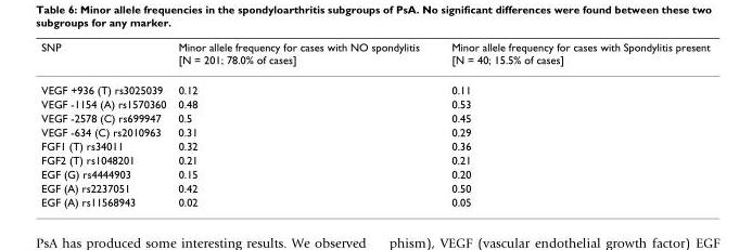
<table><thead><tr><td>SNP</td><td>Minor allele frequency for cases with NO spondylitis [N = 201; 78.0% of cases]</td><td>Minor allele frequency for cases with Spondylitis present [N = 40; 15.5% of cases]</td></tr></thead><tbody><tr><td>VEGF +936 (T) rs3025039</td><td>0.12</td><td>0.11</td></tr><tr><td>VEGF -1154 (A) rs1570360</td><td>0.48</td><td>0.53</td></tr><tr><td>VEGF -2578 (C) rs699947</td><td>0.5</td><td>0.45</td></tr><tr><td>VEGF -634 (C) rs2010963</td><td>0.31</td><td>0.29</td></tr><tr><td>FGF1 (T) rs34011</td><td>0.32</td><td>0.36</td></tr><tr><td>FGF2 (T) rs1048201</td><td>0.21</td><td>0.21</td></tr><tr><td>EGF (G) rs4444903</td><td>0.15</td><td>0.20</td></tr><tr><td>EGF (A) rs2237051</td><td>0.42</td><td>0.50</td></tr><tr><td>EGF (A) rs11568943</td><td>0.02</td><td>0.05</td></tr></tbody></table>